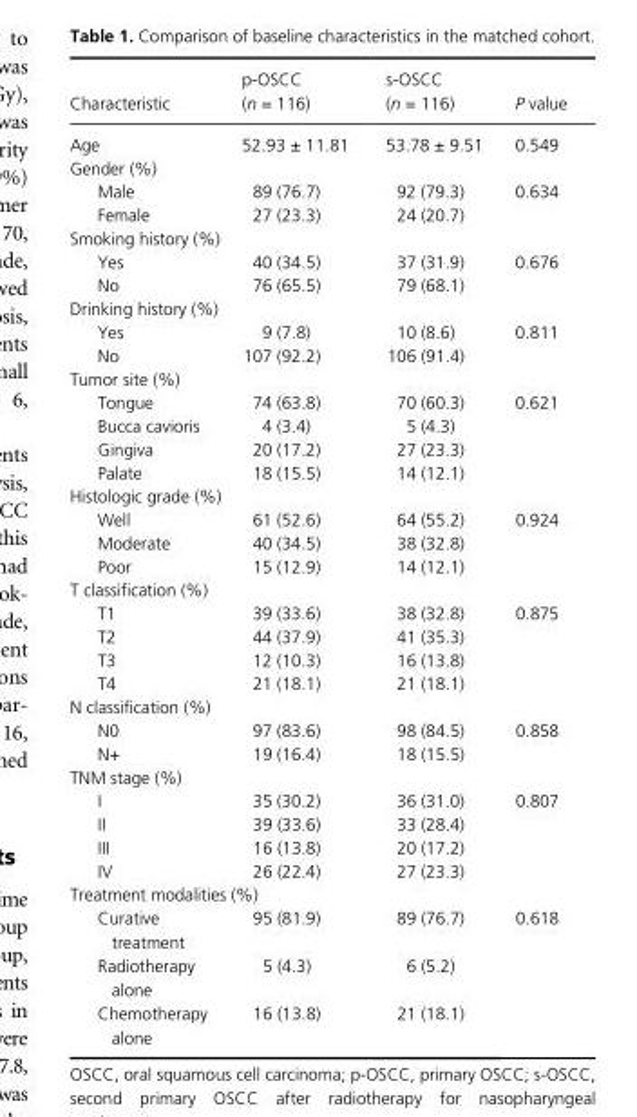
<table><thead><tr><td>Characteristic</td><td>p- OSCC (n = 116)</td><td>s- OSCC (n = 116)</td><td>P value</td></tr></thead><tbody><tr><td>Age</td><td>52.93 ± 11.81</td><td>53.78 ± 9.51</td><td>0.549</td></tr><tr><td colspan="4">Gender (%)</td></tr><tr><td>Male</td><td>89 (76.7)</td><td>92 (79.3)</td><td rowspan="2">0.634</td></tr><tr><td>Female</td><td>27 (23.3)</td><td>24 (20.7)</td></tr><tr><td colspan="4">Smoking history (%)</td></tr><tr><td>Yes</td><td>40 (34.5)</td><td>37 (31.9)</td><td rowspan="2">0.676</td></tr><tr><td>No</td><td>76 (65.5)</td><td>79 (68.1)</td></tr><tr><td colspan="4">Drinking history (%)</td></tr><tr><td>Yes</td><td>9 (7.8)</td><td>10 (8.6)</td><td rowspan="2">0.811</td></tr><tr><td>No</td><td>107 (92.2)</td><td>106 (91.4)</td></tr><tr><td colspan="4">Tumor site (%)</td></tr><tr><td>Tongue</td><td>74 (63.8)</td><td>70 (60.3)</td><td rowspan="4">0.621</td></tr><tr><td>Bucca cavioris</td><td>4 (3.4)</td><td>5 (4.3)</td></tr><tr><td>Gingiva</td><td>20 (17.2)</td><td>27 (23.3)</td></tr><tr><td>Palate</td><td>18 (15.5)</td><td>14 (12.1)</td></tr><tr><td colspan="4">Histologic grade (%)</td></tr><tr><td>Well</td><td>61 (52.6)</td><td>64 (55.2)</td><td rowspan="3">0.924</td></tr><tr><td>Moderate</td><td>40 (34.5)</td><td>38 (32.8)</td></tr><tr><td>Poor</td><td>15 (12.9)</td><td>14 (12.1)</td></tr><tr><td colspan="4">T classification (%)</td></tr><tr><td>T1</td><td>39 (33.6)</td><td>38 (32.8)</td><td rowspan="4">0.875</td></tr><tr><td>T2</td><td>44 (37.9)</td><td>41 (35.3)</td></tr><tr><td>T3</td><td>12 (10.3)</td><td>16 (13.8)</td></tr><tr><td>T4</td><td>21 (18.1)</td><td>21 (18.1)</td></tr><tr><td colspan="4">N classification (%)</td></tr><tr><td>N0</td><td>97 (83.6)</td><td>98 (84.5)</td><td rowspan="2">0.858</td></tr><tr><td>N+</td><td>19 (16.4)</td><td>18 (15.5)</td></tr><tr><td colspan="4">TNM stage (%)</td></tr><tr><td>I</td><td>35 (30.2)</td><td>36 (31.0)</td><td rowspan="4">0.807</td></tr><tr><td>II</td><td>39 (33.6)</td><td>33 (28.4)</td></tr><tr><td>III</td><td>16 (13.8)</td><td>20 (17.2)</td></tr><tr><td>IV</td><td>26 (22.4)</td><td>27 (23.3)</td></tr><tr><td colspan="4">Treatment modalities (%)</td></tr><tr><td>Curative treatment</td><td>95 (81.9)</td><td>89 (76.7)</td><td rowspan="3">0.618</td></tr><tr><td>Radiotherapy alone</td><td>5 (4.3)</td><td>6 (5.2)</td></tr><tr><td>Chemotherapy alone</td><td>16 (13.8)</td><td>21 (18.1)</td></tr></tbody></table>